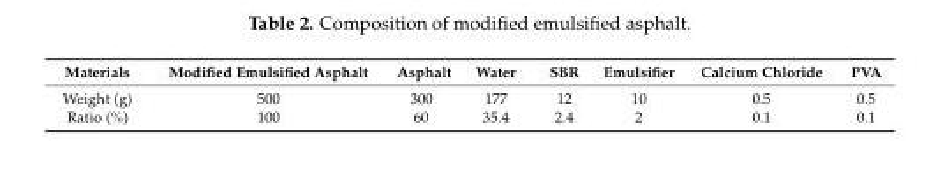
<table><thead><tr><td>Materials</td><td>Modified Emulsified Asphalt</td><td>Asphalt</td><td>Water</td><td>SBR</td><td>Emulsifier</td><td>Calcium Chloride</td><td>PVA</td></tr></thead><tbody><tr><td>Weight (g)</td><td>500</td><td>300</td><td>177</td><td>12</td><td>10</td><td>0.5</td><td>0.5</td></tr><tr><td>Ratio (%)</td><td>100</td><td>60</td><td>35.4</td><td>2.4</td><td>2</td><td>0.1</td><td>0.1</td></tr></tbody></table>